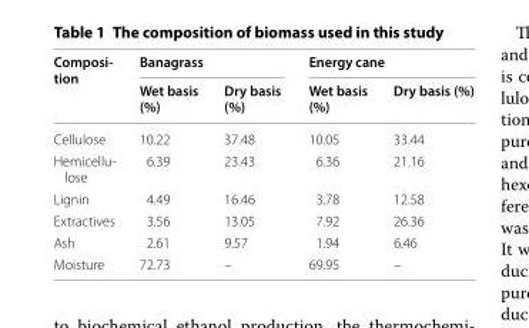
<table><thead><tr><td rowspan="2">Composi- tion</td><td colspan="2">Banagrass</td><td colspan="2">Energy cane</td></tr><tr><td>Wet basis (%)</td><td>Dry basis (%)</td><td>Wet basis (%)</td><td>Dry basis (%)</td></tr></thead><tbody><tr><td>Cellulose</td><td>10.22</td><td>37.48</td><td>10.05</td><td>33.44</td></tr><tr><td>Hemicellu- lose</td><td>6.39</td><td>23.43</td><td>6.36</td><td>21.16</td></tr><tr><td>Lignin</td><td>4.49</td><td>16.46</td><td>3.78</td><td>12.58</td></tr><tr><td>Extractives</td><td>3.56</td><td>13.05</td><td>7.92</td><td>26.36</td></tr><tr><td>Ash</td><td>2.61</td><td>9.57</td><td>1.94</td><td>6.46</td></tr><tr><td>Moisture</td><td>72.73</td><td>–</td><td>69.95</td><td>–</td></tr></tbody></table>